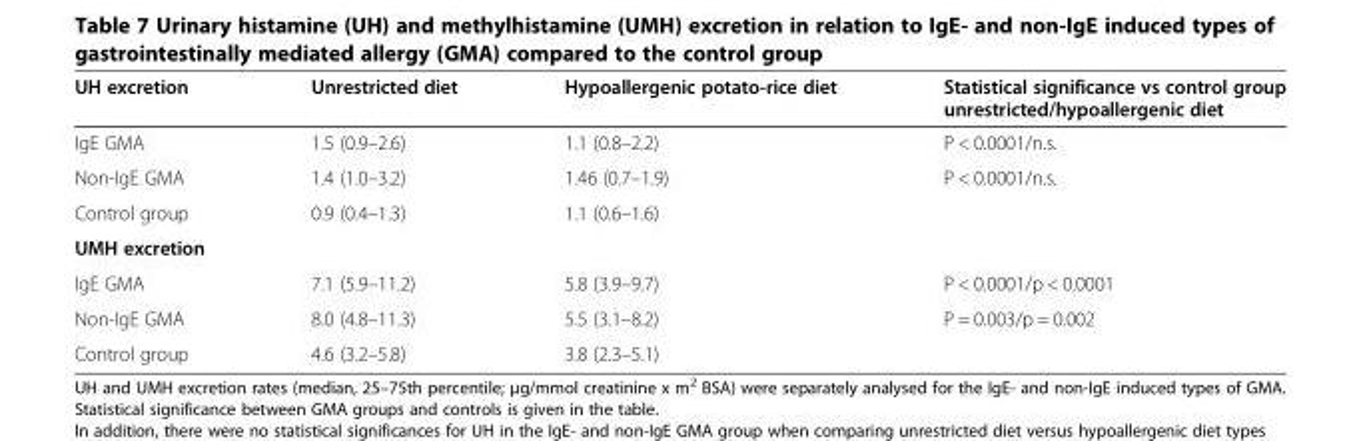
<table><thead><tr><td>UH excretion</td><td>Unrestricted diet</td><td>Hypoallergenic potato-rice diet</td><td>Statistical significance vs control group unrestricted/hypoallergenic diet</td></tr></thead><tbody><tr><td>IgE GMA</td><td>1.5 (0.9–2.6)</td><td>1.1 (0.8–2.2)</td><td>P &lt; 0.0001/n.s.</td></tr><tr><td>Non-IgE GMA</td><td>1.4 (1.0–3.2)</td><td>1.46 (0.7–1.9)</td><td>P &lt; 0.0001/n.s.</td></tr><tr><td>Control group</td><td>0.9 (0.4–1.3)</td><td>1.1 (0.6–1.6)</td><td></td></tr><tr><td colspan="4">UMH excretion</td></tr><tr><td>IgE GMA</td><td>7.1 (5.9–11.2)</td><td>5.8 (3.9–9.7)</td><td>P &lt; 0.0001/p &lt; 0.0001</td></tr><tr><td>Non-IgE GMA</td><td>8.0 (4.8–11.3)</td><td>5.5 (3.1–8.2)</td><td>P = 0.003/p = 0.002</td></tr><tr><td>Control group</td><td>4.6 (3.2–5.8)</td><td>3.8 (2.3–5.1)</td><td></td></tr></tbody></table>